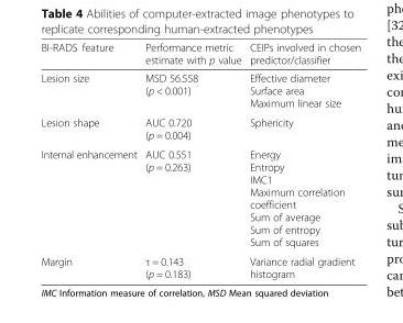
<table><thead><tr><td>BI-RADS feature</td><td>Performance metric estimate with p value</td><td>CEIPs involved in chosen predictor/classifier</td></tr></thead><tbody><tr><td>Lesion size</td><td>MSD 56.558 (p &lt; 0.001)</td><td>Effective diameter Surface area Maximum linear size</td></tr><tr><td>Lesion shape</td><td>AUC 0.720 (p = 0.004)</td><td>Sphericity</td></tr><tr><td>Internal enhancement</td><td>AUC 0.551 (p = 0.263)</td><td>Energy Entropy IMC1 Maximum correlation coefficient Sum of average Sum of entropy Sum of squares</td></tr><tr><td>Margin</td><td>τ = 0.143 (p = 0.183)</td><td>Variance radial gradient histogram</td></tr></tbody></table>